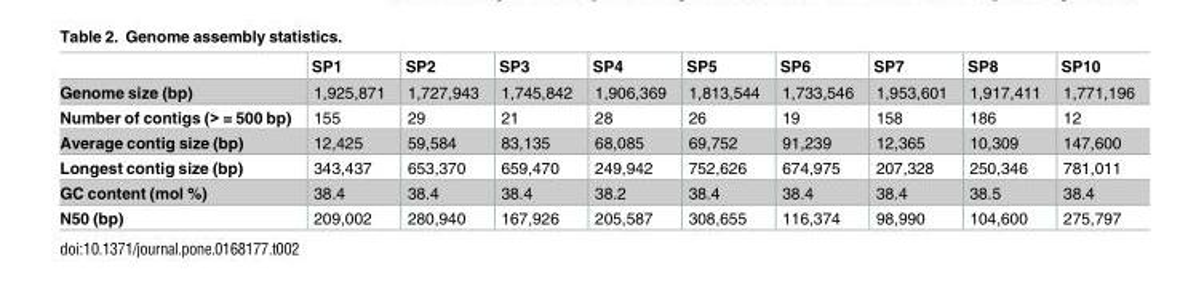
<table><thead><tr><td></td><td>SP1</td><td>SP2</td><td>SP3</td><td>SP4</td><td>SP5</td><td>SP6</td><td>SP7</td><td>SP8</td><td>SP10</td></tr></thead><tbody><tr><td>Genome size (bp)</td><td>1,925,871</td><td>1,727,943</td><td>1,745,842</td><td>1,906,369</td><td>1,813,544</td><td>1,733,546</td><td>1,953,601</td><td>1,917,411</td><td>1,771,196</td></tr><tr><td>Number of contigs (&gt; = 500 bp)</td><td>155</td><td>29</td><td>21</td><td>28</td><td>26</td><td>19</td><td>158</td><td>186</td><td>12</td></tr><tr><td>Average contig size (bp)</td><td>12,425</td><td>59,584</td><td>83,135</td><td>68,085</td><td>69,752</td><td>91,239</td><td>12,365</td><td>10,309</td><td>147,600</td></tr><tr><td>Longest contig size (bp)</td><td>343,437</td><td>653,370</td><td>659,470</td><td>249,942</td><td>752,626</td><td>674,975</td><td>207,328</td><td>250,346</td><td>781,011</td></tr><tr><td>GC content (mol %)</td><td>38.4</td><td>38.4</td><td>38.4</td><td>38.2</td><td>38.4</td><td>38.4</td><td>38.4</td><td>38.5</td><td>38.4</td></tr><tr><td>N50 (bp)</td><td>209,002</td><td>280,940</td><td>167,926</td><td>205,587</td><td>308,655</td><td>116,374</td><td>98,990</td><td>104,600</td><td>275,797</td></tr></tbody></table>